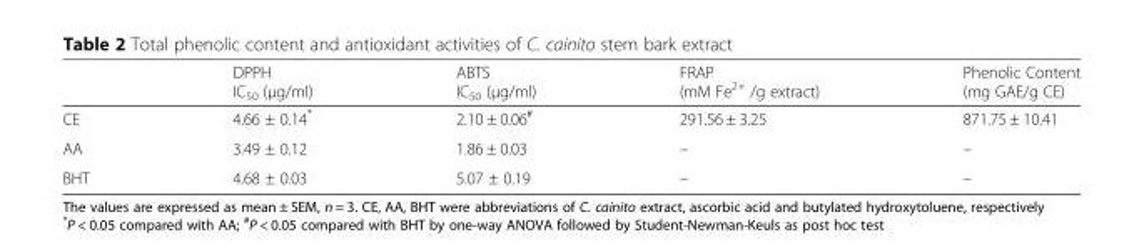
<table><thead><tr><td></td><td>DPPH IC<sub>50</sub> (μg/ml)</td><td>ABTS IC<sub>50</sub> (μg/ml)</td><td>FRAP (mM Fe<sup>2+</sup> /g extract)</td><td>Phenolic Content (mg GAE/g CE)</td></tr></thead><tbody><tr><td>CE</td><td>4.66 ± 0.14*</td><td>2.10 ± 0.06<sup>#</sup></td><td>291.56 ± 3.25</td><td>871.75 ± 10.41</td></tr><tr><td>AA</td><td>3.49 ± 0.12</td><td>1.86 ± 0.03</td><td>–</td><td>–</td></tr><tr><td>BHT</td><td>4.68 ± 0.03</td><td>5.07 ± 0.19</td><td>–</td><td>–</td></tr></tbody></table>